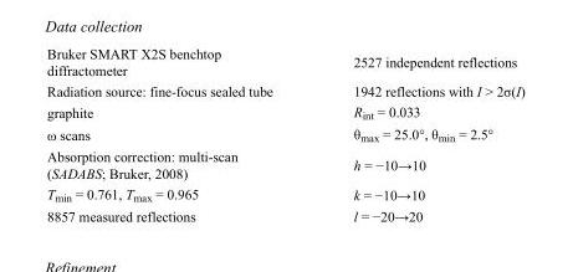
<table><tbody><tr><td>Bruker SMART X2S benchtop diffractometer</td><td>2527 independent reflections</td></tr><tr><td>Radiation source: fine-focus sealed tube</td><td>1942 reflections with I &gt; 2σ(I)</td></tr><tr><td>graphite</td><td>R<sub>int</sub> = 0.033</td></tr><tr><td>ω scans</td><td>θ<sub>max</sub> = 25.0°, θ<sub>min</sub> = 2.5°</td></tr><tr><td>Absorption correction: multi-scan (SADABS; Bruker, 2008)</td><td>h = −10→10</td></tr><tr><td>T<sub>min</sub> = 0.761, T<sub>max</sub> = 0.965</td><td>k = −10→10</td></tr><tr><td>8857 measured reflections</td><td>l = −20→20</td></tr></tbody></table>